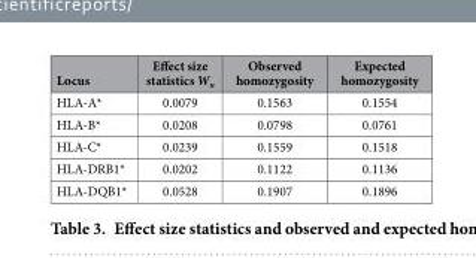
<table><thead><tr><td>Locus</td><td>Effect size statistics W<sub>n</sub></td><td>Observed homozygosity</td><td>Expected homozygosity</td></tr></thead><tbody><tr><td>HLA-A*</td><td>0.0079</td><td>0.1563</td><td>0.1554</td></tr><tr><td>HLA-B*</td><td>0.0208</td><td>0.0798</td><td>0.0761</td></tr><tr><td>HLA-C*</td><td>0.0239</td><td>0.1559</td><td>0.1518</td></tr><tr><td>HLA-DRB1*</td><td>0.0202</td><td>0.1122</td><td>0.1136</td></tr><tr><td>HLA-DQB1*</td><td>0.0528</td><td>0.1907</td><td>0.1896</td></tr></tbody></table>